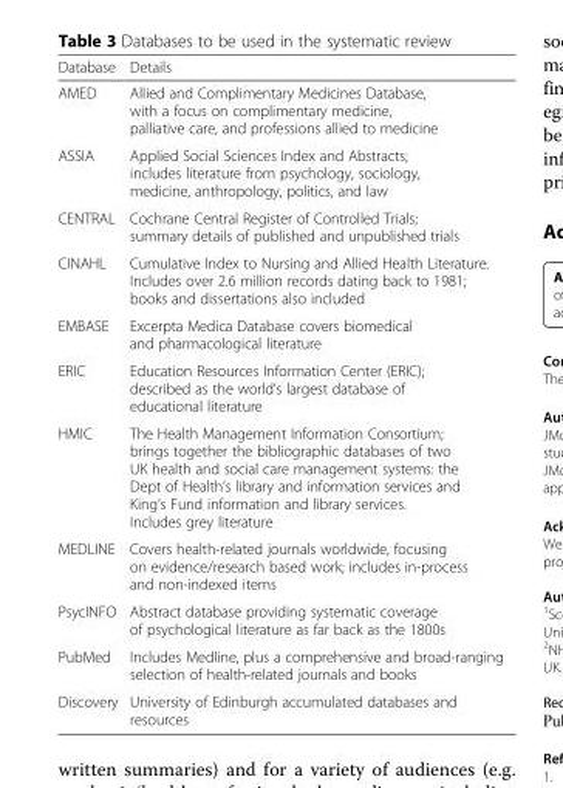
<table><thead><tr><td>Database</td><td>Details</td></tr></thead><tbody><tr><td>AMED</td><td>Allied and Complimentary Medicines Database, with a focus on complimentary medicine, palliative care, and professions allied to medicine</td></tr><tr><td>ASSIA</td><td>Applied Social Sciences Index and Abstracts; includes literature from psychology, sociology, medicine, anthropology, politics, and law</td></tr><tr><td>CENTRAL</td><td>Cochrane Central Register of Controlled Trials; summary details of published and unpublished trials</td></tr><tr><td>CINAHL</td><td>Cumulative Index to Nursing and Allied Health Literature. Includes over 2.6 million records dating back to 1981; books and dissertations also included</td></tr><tr><td>EMBASE</td><td>Excerpta Medica Database covers biomedical and pharmacological literature</td></tr><tr><td>ERIC</td><td>Education Resources Information Center (ERIC); described as the world’s largest database of educational literature</td></tr><tr><td>HMIC</td><td>The Health Management Information Consortium; brings together the bibliographic databases of two UK health and social care management systems: the Dept of Health’s library and information services and King’s Fund information and library services. Includes grey literature</td></tr><tr><td>MEDLINE</td><td>Covers health-related journals worldwide, focusing on evidence/research based work; includes in-process and non-indexed items</td></tr><tr><td>PsycINFO</td><td>Abstract database providing systematic coverage of psychological literature as far back as the 1800s</td></tr><tr><td>PubMed</td><td>Includes Medline, plus a comprehensive and broad-ranging selection of health-related journals and books</td></tr><tr><td>Discovery</td><td>University of Edinburgh accumulated databases and resources</td></tr></tbody></table>